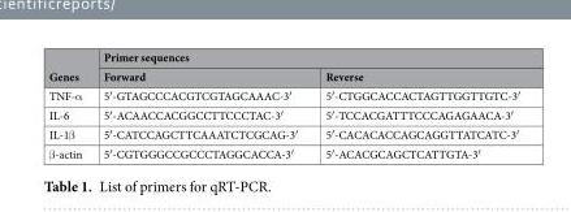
<table><thead><tr><td rowspan="2">Genes</td><td colspan="2">Primer sequences</td></tr><tr><td>Forward</td><td>Reverse</td></tr></thead><tbody><tr><td>TNF-α</td><td>5′-GTAGCCCACGTCGTAGCAAAC-3′</td><td>5′-CTGGCACCACTAGTTGGTTGTC-3′</td></tr><tr><td>IL-6</td><td>5′-ACAACCACGGCCTTCCCTAC-3′</td><td>5′-TCCACGATTTCCCAGAGAACA-3′</td></tr><tr><td>IL-1β</td><td>5′-CATCCAGCTTCAAATCTCGCAG-3′</td><td>5′-CACACACCAGCAGGTTATCATC-3′</td></tr><tr><td>β-actin</td><td>5′-CGTGGGCCGCCCTAGGCACCA-3′</td><td>5′-ACACGCAGCTCATTGTA-3′</td></tr></tbody></table>